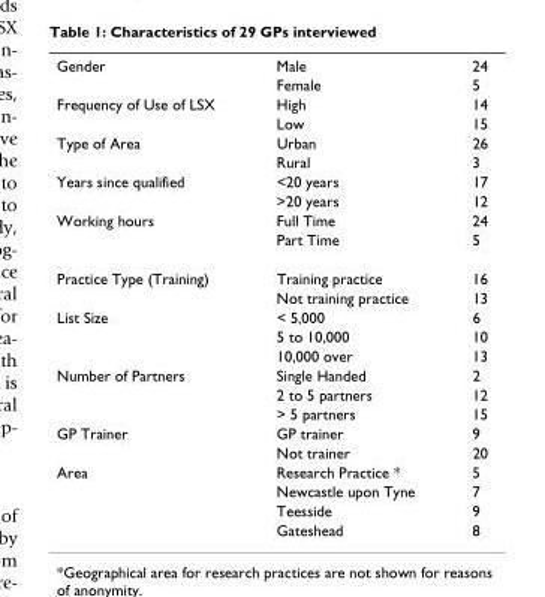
<table><tbody><tr><td rowspan="2">Gender</td><td>Male</td><td>24</td></tr><tr><td>Female</td><td>5</td></tr><tr><td rowspan="2">Frequency of Use of LSX</td><td>High</td><td>14</td></tr><tr><td>Low</td><td>15</td></tr><tr><td rowspan="2">Type of Area</td><td>Urban</td><td>26</td></tr><tr><td>Rural</td><td>3</td></tr><tr><td rowspan="2">Years since qualified</td><td>&lt;20 years</td><td>17</td></tr><tr><td>&gt;20 years</td><td>12</td></tr><tr><td rowspan="2">Working hours</td><td>Full Time</td><td>24</td></tr><tr><td>Part Time</td><td>5</td></tr><tr><td rowspan="2">Practice Type (Training)</td><td>Training practice</td><td>16</td></tr><tr><td>Not training practice</td><td>13</td></tr><tr><td rowspan="3">List Size</td><td>&lt; 5,000</td><td>6</td></tr><tr><td>5 to 10,000</td><td>10</td></tr><tr><td>10,000 over</td><td>13</td></tr><tr><td rowspan="3">Number of Partners</td><td>Single Handed</td><td>2</td></tr><tr><td>2 to 5 partners</td><td>12</td></tr><tr><td>&gt; 5 partners</td><td>15</td></tr><tr><td rowspan="2">GP Trainer</td><td>GP trainer</td><td>9</td></tr><tr><td>Not trainer</td><td>20</td></tr><tr><td rowspan="4">Area</td><td>Research Practice *</td><td>5</td></tr><tr><td>Newcastle upon Tyne</td><td>7</td></tr><tr><td>Teesside</td><td>9</td></tr><tr><td>Gateshead</td><td>8</td></tr></tbody></table>